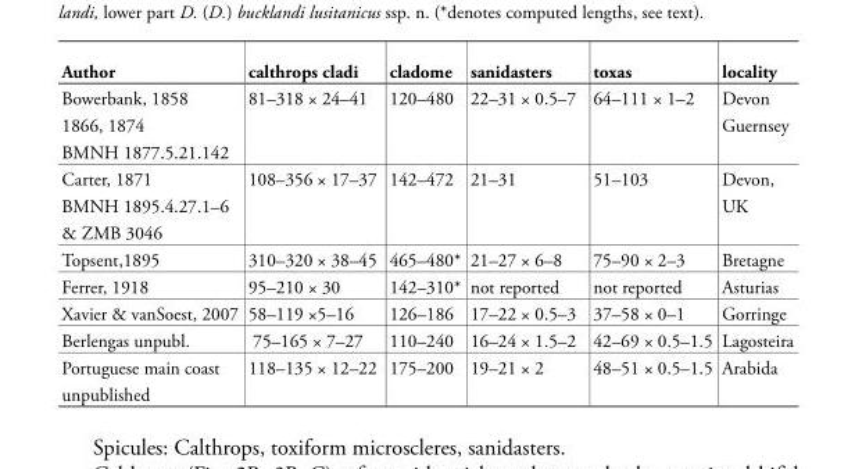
<table><thead><tr><td>Author</td><td>calthrops cladi</td><td>cladome</td><td>sanidasters</td><td>toxas</td><td>locality</td></tr></thead><tbody><tr><td>Bowerbank, 1858 1866, 1874 BMNH 1877.5.21.142</td><td>81–318 × 24–41</td><td>120–480</td><td>22–31 × 0.5–7</td><td>64–111 × 1–2</td><td>Devon Guernsey</td></tr><tr><td>Carter, 1871 BMNH 1895.4.27.1–6 &amp; ZMB 3046</td><td>108–356 × 17–37</td><td>142–472</td><td>21–31</td><td>51–103</td><td>Devon, UK</td></tr><tr><td>Topsent,1895</td><td>310–320 × 38–45</td><td>465–480*</td><td>21–27 × 6–8</td><td>75–90 × 2–3</td><td>Bretagne</td></tr><tr><td>Ferrer, 1918</td><td>95–210 × 30</td><td>142–310*</td><td>not reported</td><td>not reported</td><td>Asturias</td></tr><tr><td>Xavier &amp; vanSoest, 2007</td><td>58–119 ×5–16</td><td>126–186</td><td>17–22 × 0.5–3</td><td>37–58 × 0–1</td><td>Gorringe</td></tr><tr><td>Berlengas unpubl.</td><td>75–165 × 7–27</td><td>110–240</td><td>16–24 × 1.5–2</td><td>42–69 × 0.5–1.5</td><td>Lagosteira</td></tr><tr><td>Portuguese main coast unpublished</td><td>118–135 × 12–22</td><td>175–200</td><td>19–21 × 2</td><td>48–51 × 0.5–1.5</td><td>Arabida</td></tr></tbody></table>